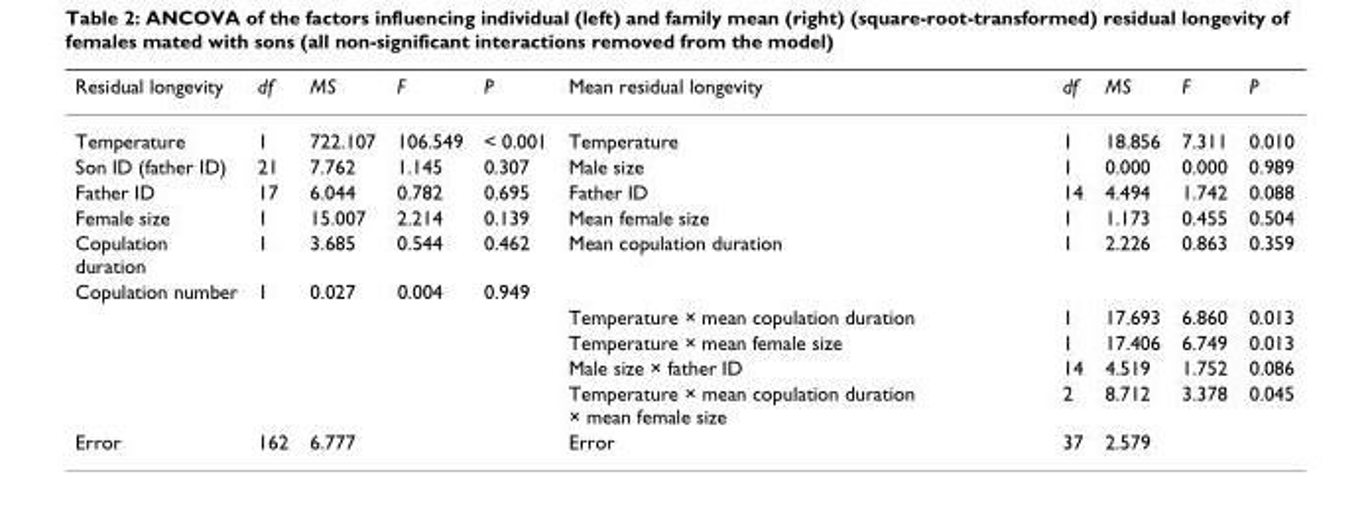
<table><thead><tr><td>Residual longevity</td><td>df</td><td>MS</td><td>F</td><td>P</td><td>Mean residual longevity</td><td>df</td><td>MS</td><td>F</td><td>P</td></tr></thead><tbody><tr><td>Temperature</td><td>1</td><td>722.107</td><td>106.549</td><td>&lt; 0.001</td><td>Temperature</td><td>1</td><td>18.856</td><td>7.311</td><td>0.010</td></tr><tr><td>Son ID (father ID)</td><td>21</td><td>7.762</td><td>1.145</td><td>0.307</td><td>Male size</td><td>1</td><td>0.000</td><td>0.000</td><td>0.989</td></tr><tr><td>Father ID</td><td>17</td><td>6.044</td><td>0.782</td><td>0.695</td><td>Father ID</td><td>14</td><td>4.494</td><td>1.742</td><td>0.088</td></tr><tr><td>Female size</td><td>1</td><td>15.007</td><td>2.214</td><td>0.139</td><td>Mean female size</td><td>1</td><td>1.173</td><td>0.455</td><td>0.504</td></tr><tr><td>Copulation duration</td><td>1</td><td>3.685</td><td>0.544</td><td>0.462</td><td>Mean copulation duration</td><td>1</td><td>2.226</td><td>0.863</td><td>0.359</td></tr><tr><td rowspan="5">Copulation number</td><td>1</td><td>0.027</td><td>0.004</td><td>0.949</td><td></td><td></td><td></td><td></td><td></td></tr><tr><td></td><td></td><td></td><td></td><td>Temperature × mean copulation duration</td><td>1</td><td>17.693</td><td>6.860</td><td>0.013</td></tr><tr><td></td><td></td><td></td><td></td><td>Temperature × mean female size</td><td>1</td><td>17.406</td><td>6.749</td><td>0.013</td></tr><tr><td></td><td></td><td></td><td></td><td>Male size × father ID</td><td>14</td><td>4.519</td><td>1.752</td><td>0.086</td></tr><tr><td></td><td></td><td></td><td></td><td>Temperature × mean copulation duration × mean female size</td><td>2</td><td>8.712</td><td>3.378</td><td>0.045</td></tr><tr><td>Error</td><td>162</td><td>6.777</td><td></td><td></td><td>Error</td><td>37</td><td>2.579</td><td></td><td></td></tr></tbody></table>